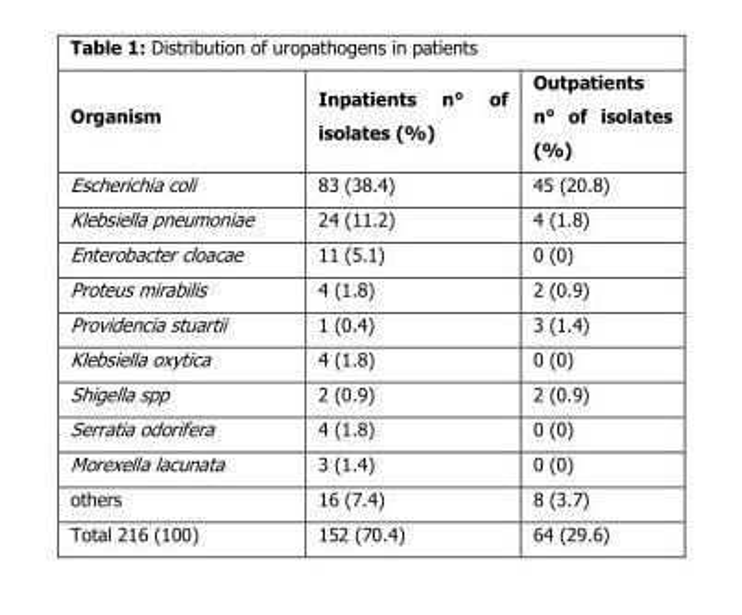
<table><thead><tr><td>Organism</td><td>Inpatients n° of isolates (%)</td><td>Outpatients n° of isolates (%)</td></tr></thead><tbody><tr><td>Escherichia coli</td><td>83 (38.4)</td><td>45 (20.8)</td></tr><tr><td>Klebsiella pneumoniae</td><td>24 (11.2)</td><td>4 (1.8)</td></tr><tr><td>Enterobacter cloacae</td><td>11 (5.1)</td><td>0 (0)</td></tr><tr><td>Proteus mirabilis</td><td>4 (1.8)</td><td>2 (0.9)</td></tr><tr><td>Providencia stuartii</td><td>1 (0.4)</td><td>3 (1.4)</td></tr><tr><td>Klebsiella oxytica</td><td>4 (1.8)</td><td>0 (0)</td></tr><tr><td>Shigella spp</td><td>2 (0.9)</td><td>2 (0.9)</td></tr><tr><td>Serratia odorifera</td><td>4 (1.8)</td><td>0 (0)</td></tr><tr><td>Morexella lacunata</td><td>3 (1.4)</td><td>0 (0)</td></tr><tr><td>others</td><td>16 (7.4)</td><td>8 (3.7)</td></tr><tr><td>Total 216 (100)</td><td>152 (70.4)</td><td>64 (29.6)</td></tr></tbody></table>